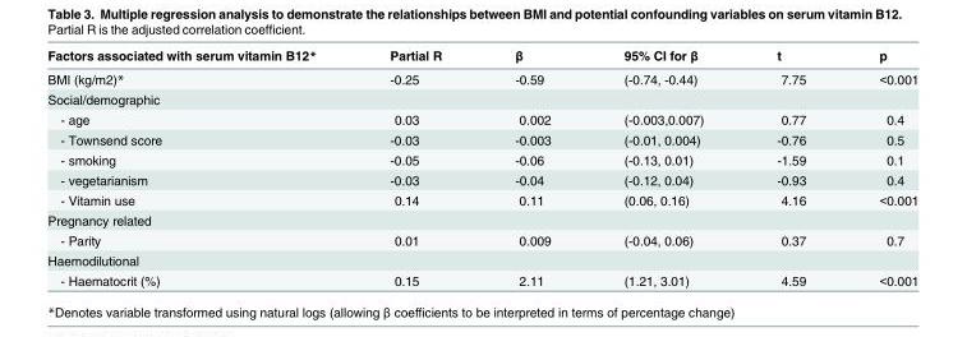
<table><thead><tr><td>Factors associated with serum vitamin B12*</td><td>Partial R</td><td>β</td><td>95% CI for β</td><td>t</td><td>p</td></tr></thead><tbody><tr><td>BMI (kg/m2)*</td><td>-0.25</td><td>-0.59</td><td>(-0.74, -0.44)</td><td>7.75</td><td>&lt;0.001</td></tr><tr><td colspan="6">Social/demographic</td></tr><tr><td>- age</td><td>0.03</td><td>0.002</td><td>(-0.003,0.007)</td><td>0.77</td><td>0.4</td></tr><tr><td>- Townsend score</td><td>-0.03</td><td>-0.003</td><td>(-0.01, 0.004)</td><td>-0.76</td><td>0.5</td></tr><tr><td>- smoking</td><td>-0.05</td><td>-0.06</td><td>(-0.13, 0.01)</td><td>-1.59</td><td>0.1</td></tr><tr><td>- vegetarianism</td><td>-0.03</td><td>-0.04</td><td>(-0.12, 0.04)</td><td>-0.93</td><td>0.4</td></tr><tr><td>- Vitamin use</td><td>0.14</td><td>0.11</td><td>(0.06, 0.16)</td><td>4.16</td><td>&lt;0.001</td></tr><tr><td colspan="6">Pregnancy related</td></tr><tr><td>- Parity</td><td>0.01</td><td>0.009</td><td>(-0.04, 0.06)</td><td>0.37</td><td>0.7</td></tr><tr><td colspan="6">Haemodilutional</td></tr><tr><td>- Haematocrit (%)</td><td>0.15</td><td>2.11</td><td>(1.21, 3.01)</td><td>4.59</td><td>&lt;0.001</td></tr></tbody></table>